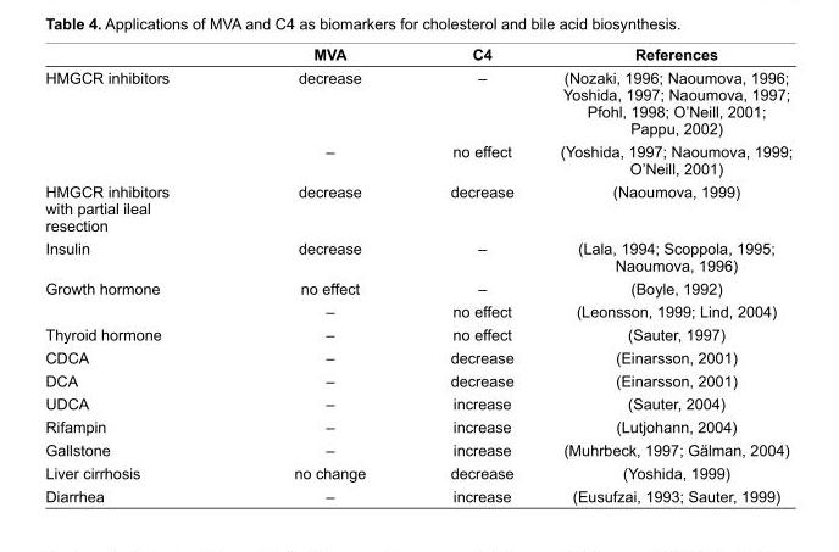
<table><thead><tr><td></td><td>MVA</td><td>C4</td><td>References</td></tr></thead><tbody><tr><td rowspan="2">HMGCR inhibitors</td><td>decrease</td><td>–</td><td>(Nozaki, 1996; Naoumova, 1996; Yoshida, 1997; Naoumova, 1997; Pfohl, 1998; O’Neill, 2001; Pappu, 2002)</td></tr><tr><td>–</td><td>no effect</td><td>(Yoshida, 1997; Naoumova, 1999; O’Neill, 2001)</td></tr><tr><td>HMGCR inhibitors with partial ileal resection</td><td>decrease</td><td>decrease</td><td>(Naoumova, 1999)</td></tr><tr><td>Insulin</td><td>decrease</td><td>–</td><td>(Lala, 1994; Scoppola, 1995; Naoumova, 1996)</td></tr><tr><td rowspan="2">Growth hormone</td><td>no effect</td><td>–</td><td>(Boyle, 1992)</td></tr><tr><td>–</td><td>no effect</td><td>(Leonsson, 1999; Lind, 2004)</td></tr><tr><td>Thyroid hormone</td><td>–</td><td>no effect</td><td>(Sauter, 1997)</td></tr><tr><td>CDCA</td><td>–</td><td>decrease</td><td>(Einarsson, 2001)</td></tr><tr><td>DCA</td><td>–</td><td>decrease</td><td>(Einarsson, 2001)</td></tr><tr><td>UDCA</td><td>–</td><td>increase</td><td>(Sauter, 2004)</td></tr><tr><td>Rifampin</td><td>–</td><td>increase</td><td>(Lutjohann, 2004)</td></tr><tr><td>Gallstone</td><td>–</td><td>increase</td><td>(Muhrbeck, 1997; Gälman, 2004)</td></tr><tr><td>Liver cirrhosis</td><td>no change</td><td>decrease</td><td>(Yoshida, 1999)</td></tr><tr><td>Diarrhea</td><td>–</td><td>increase</td><td>(Eusufzai, 1993; Sauter, 1999)</td></tr></tbody></table>